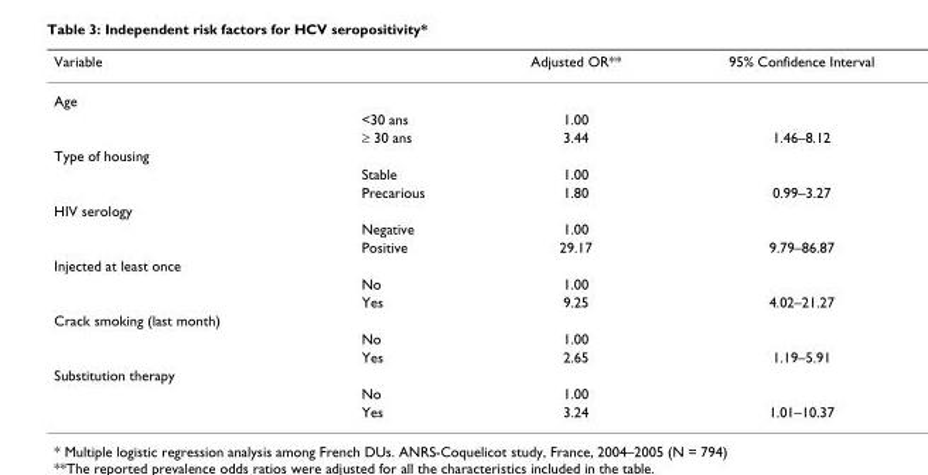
<table><thead><tr><td>Variable</td><td></td><td>Adjusted OR**</td><td>95% Confidence Interval</td></tr></thead><tbody><tr><td colspan="4">Age</td></tr><tr><td></td><td>&lt;30 ans</td><td>1.00</td><td></td></tr><tr><td></td><td>≥ 30 ans</td><td>3.44</td><td>1.46–8.12</td></tr><tr><td colspan="4">Type of housing</td></tr><tr><td></td><td>Stable</td><td>1.00</td><td></td></tr><tr><td></td><td>Precarious</td><td>1.80</td><td>0.99–3.27</td></tr><tr><td colspan="4">HIV serology</td></tr><tr><td></td><td>Negative</td><td>1.00</td><td></td></tr><tr><td></td><td>Positive</td><td>29.17</td><td>9.79–86.87</td></tr><tr><td colspan="4">Injected at least once</td></tr><tr><td></td><td>No</td><td>1.00</td><td></td></tr><tr><td></td><td>Yes</td><td>9.25</td><td>4.02–21.27</td></tr><tr><td colspan="4">Crack smoking (last month)</td></tr><tr><td></td><td>No</td><td>1.00</td><td></td></tr><tr><td></td><td>Yes</td><td>2.65</td><td>1.19–5.91</td></tr><tr><td colspan="4">Substitution therapy</td></tr><tr><td></td><td>No</td><td>1.00</td><td></td></tr><tr><td></td><td>Yes</td><td>3.24</td><td>1.01–10.37</td></tr></tbody></table>